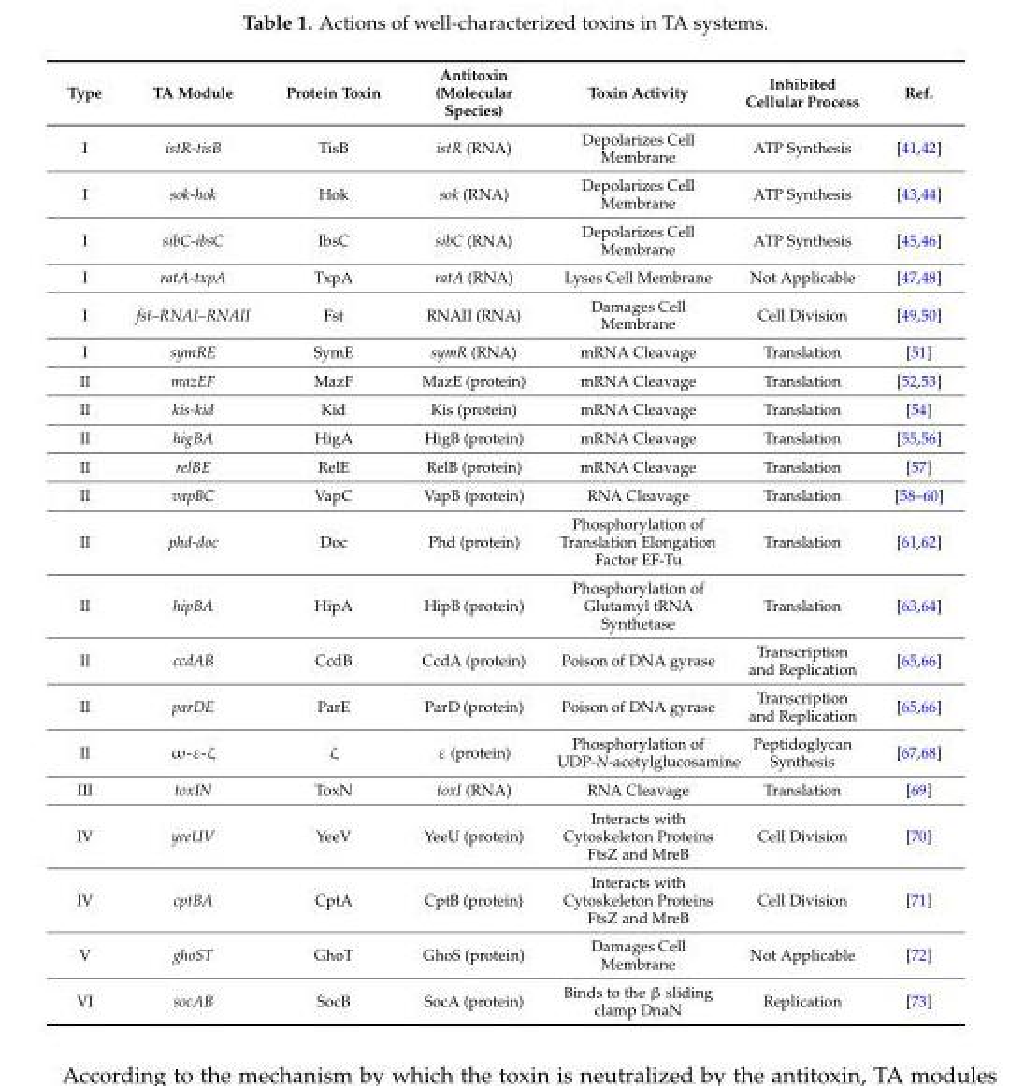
<table><thead><tr><td>Type</td><td>TA Module</td><td>Protein Toxin</td><td>Antitoxin (Molecular Species)</td><td>Toxin Activity</td><td>Inhibited Cellular Process</td><td>Ref.</td></tr></thead><tbody><tr><td>I</td><td>istR-tisB</td><td>TisB</td><td>istR (RNA)</td><td>Depolarizes Cell Membrane</td><td>ATP Synthesis</td><td>[41,42]</td></tr><tr><td>I</td><td>sok-hok</td><td>Hok</td><td>sok (RNA)</td><td>Depolarizes Cell Membrane</td><td>ATP Synthesis</td><td>[43,44]</td></tr><tr><td>I</td><td>sibC-ibsC</td><td>IbsC</td><td>sibC (RNA)</td><td>Depolarizes Cell Membrane</td><td>ATP Synthesis</td><td>[45,46]</td></tr><tr><td>I</td><td>ratA-txpA</td><td>TxpA</td><td>ratA (RNA)</td><td>Lyses Cell Membrane</td><td>Not Applicable</td><td>[47,48]</td></tr><tr><td>I</td><td>fst–RNAI–RNAII</td><td>Fst</td><td>RNAII (RNA)</td><td>Damages Cell Membrane</td><td>Cell Division</td><td>[49,50]</td></tr><tr><td>I</td><td>symRE</td><td>SymE</td><td>symR (RNA)</td><td>mRNA Cleavage</td><td>Translation</td><td>[51]</td></tr><tr><td>II</td><td>mazEF</td><td>MazF</td><td>MazE (protein)</td><td>mRNA Cleavage</td><td>Translation</td><td>[52,53]</td></tr><tr><td>II</td><td>kis-kid</td><td>Kid</td><td>Kis (protein)</td><td>mRNA Cleavage</td><td>Translation</td><td>[54]</td></tr><tr><td>II</td><td>higBA</td><td>HigA</td><td>HigB (protein)</td><td>mRNA Cleavage</td><td>Translation</td><td>[55,56]</td></tr><tr><td>II</td><td>relBE</td><td>RelE</td><td>RelB (protein)</td><td>mRNA Cleavage</td><td>Translation</td><td>[57]</td></tr><tr><td>II</td><td>vapBC</td><td>VapC</td><td>VapB (protein)</td><td>RNA Cleavage</td><td>Translation</td><td>[58–60]</td></tr><tr><td>II</td><td>phd-doc</td><td>Doc</td><td>Phd (protein)</td><td>Phosphorylation of Translation Elongation Factor EF-Tu</td><td>Translation</td><td>[61,62]</td></tr><tr><td>II</td><td>hipBA</td><td>HipA</td><td>HipB (protein)</td><td>Phosphorylation of Glutamyl tRNA Synthetase</td><td>Translation</td><td>[63,64]</td></tr><tr><td>II</td><td>ccdAB</td><td>CcdB</td><td>CcdA (protein)</td><td>Poison of DNA gyrase</td><td>Transcription and Replication</td><td>[65,66]</td></tr><tr><td>II</td><td>parDE</td><td>ParE</td><td>ParD (protein)</td><td>Poison of DNA gyrase</td><td>Transcription and Replication</td><td>[65,66]</td></tr><tr><td>II</td><td>ω-ε-ζ</td><td>ζ</td><td>ε (protein)</td><td>Phosphorylation of UDP-N-acetylglucosamine</td><td>Peptidoglycan Synthesis</td><td>[67,68]</td></tr><tr><td>III</td><td>toxIN</td><td>ToxN</td><td>toxI (RNA)</td><td>RNA Cleavage</td><td>Translation</td><td>[69]</td></tr><tr><td>IV</td><td>yeeUV</td><td>YeeV</td><td>YeeU (protein)</td><td>Interacts with Cytoskeleton Proteins FtsZ and MreB</td><td>Cell Division</td><td>[70]</td></tr><tr><td>IV</td><td>cptBA</td><td>CptA</td><td>CptB (protein)</td><td>Interacts with Cytoskeleton Proteins FtsZ and MreB</td><td>Cell Division</td><td>[71]</td></tr><tr><td>V</td><td>ghoST</td><td>GhoT</td><td>GhoS (protein)</td><td>Damages Cell Membrane</td><td>Not Applicable</td><td>[72]</td></tr><tr><td>VI</td><td>socAB</td><td>SocB</td><td>SocA (protein)</td><td>Binds to the β sliding clamp DnaN</td><td>Replication</td><td>[73]</td></tr></tbody></table>